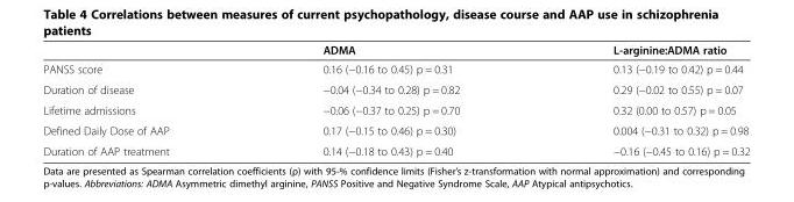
<table><thead><tr><td></td><td>ADMA</td><td>L-arginine:ADMA ratio</td></tr></thead><tbody><tr><td>PANSS score</td><td>0.16 (−0.16 to 0.45) p = 0.31</td><td>0.13 (−0.19 to 0.42) p = 0.44</td></tr><tr><td>Duration of disease</td><td>−0.04 (−0.34 to 0.28) p = 0.82</td><td>0.29 (−0.02 to 0.55) p = 0.07</td></tr><tr><td>Lifetime admissions</td><td>−0.06 (−0.37 to 0.25) p = 0.70</td><td>0.32 (0.00 to 0.57) p = 0.05</td></tr><tr><td>Defined Daily Dose of AAP</td><td>0.17 (−0.15 to 0.46) p = 0.30)</td><td>0.004 (−0.31 to 0.32) p = 0.98</td></tr><tr><td>Duration of AAP treatment</td><td>0.14 (−0.18 to 0.43) p = 0.40</td><td>−0.16 (−0.45 to 0.16) p = 0.32</td></tr></tbody></table>